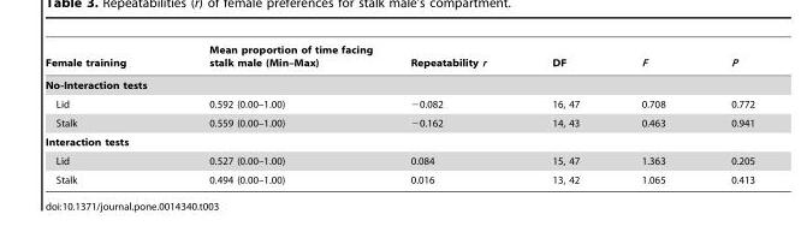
<table><thead><tr><td>Female training</td><td>Mean proportion of time facing stalk male (Min–Max)</td><td>Repeatability r</td><td>DF</td><td>F</td><td>P</td></tr></thead><tbody><tr><td colspan="6">No-Interaction tests</td></tr><tr><td>Lid</td><td>0.592 (0.00–1.00)</td><td>−0.082</td><td>16, 47</td><td>0.708</td><td>0.772</td></tr><tr><td>Stalk</td><td>0.559 (0.00–1.00)</td><td>−0.162</td><td>14, 43</td><td>0.463</td><td>0.941</td></tr><tr><td colspan="6">Interaction tests</td></tr><tr><td>Lid</td><td>0.527 (0.00–1.00)</td><td>0.084</td><td>15, 47</td><td>1.363</td><td>0.205</td></tr><tr><td>Stalk</td><td>0.494 (0.00–1.00)</td><td>0.016</td><td>13, 42</td><td>1.065</td><td>0.413</td></tr></tbody></table>